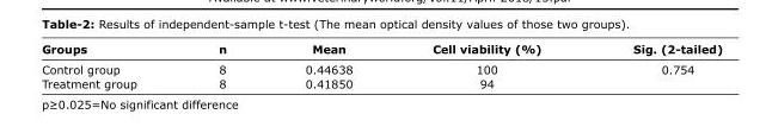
<table><thead><tr><td>Groups</td><td>n</td><td>Mean</td><td>Cell viability (%)</td><td>Sig. (2-tailed)</td></tr></thead><tbody><tr><td>Control group</td><td>8</td><td>0.44638</td><td>100</td><td>0.754</td></tr><tr><td>Treatment group</td><td>8</td><td>0.41850</td><td>94</td><td></td></tr></tbody></table>